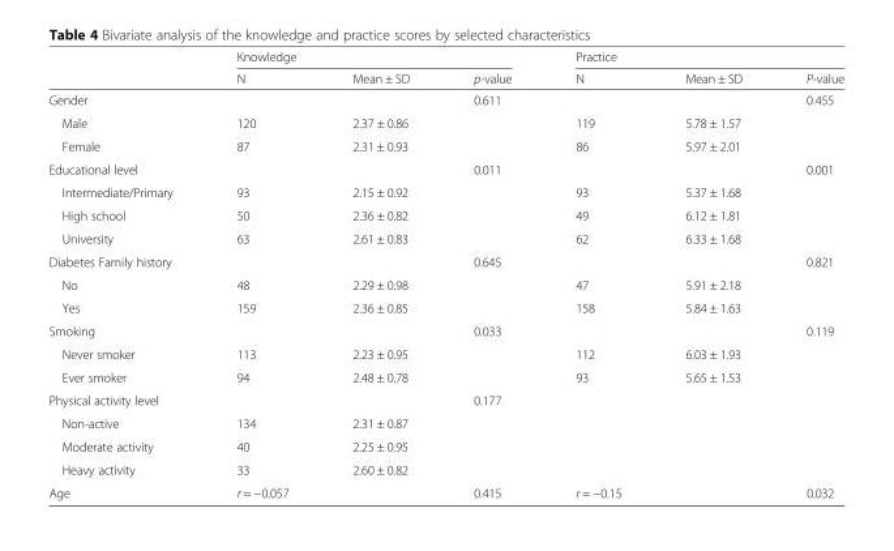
<table><thead><tr><td rowspan="2"></td><td colspan="3">Knowledge</td><td colspan="3">Practice</td></tr><tr><td>N</td><td>Mean ± SD</td><td>p-value</td><td>N</td><td>Mean ± SD</td><td>P-value</td></tr></thead><tbody><tr><td>Gender</td><td></td><td></td><td>0.611</td><td></td><td></td><td>0.455</td></tr><tr><td>Male</td><td>120</td><td>2.37 ± 0.86</td><td></td><td>119</td><td>5.78 ± 1.57</td><td></td></tr><tr><td>Female</td><td>87</td><td>2.31 ± 0.93</td><td></td><td>86</td><td>5.97 ± 2.01</td><td></td></tr><tr><td colspan="3">Educational level</td><td>0.011</td><td></td><td></td><td>0.001</td></tr><tr><td>Intermediate/Primary</td><td>93</td><td>2.15 ± 0.92</td><td></td><td>93</td><td>5.37 ± 1.68</td><td></td></tr><tr><td>High school</td><td>50</td><td>2.36 ± 0.82</td><td></td><td>49</td><td>6.12 ± 1.81</td><td></td></tr><tr><td>University</td><td>63</td><td>2.61 ± 0.83</td><td></td><td>62</td><td>6.33 ± 1.68</td><td></td></tr><tr><td colspan="3">Diabetes Family history</td><td>0.645</td><td></td><td></td><td>0.821</td></tr><tr><td>No</td><td>48</td><td>2.29 ± 0.98</td><td></td><td>47</td><td>5.91 ± 2.18</td><td></td></tr><tr><td>Yes</td><td>159</td><td>2.36 ± 0.85</td><td></td><td>158</td><td>5.84 ± 1.63</td><td></td></tr><tr><td colspan="2">Smoking</td><td></td><td>0.033</td><td></td><td></td><td>0.119</td></tr><tr><td>Never smoker</td><td>113</td><td>2.23 ± 0.95</td><td></td><td>112</td><td>6.03 ± 1.93</td><td></td></tr><tr><td>Ever smoker</td><td>94</td><td>2.48 ± 0.78</td><td></td><td>93</td><td>5.65 ± 1.53</td><td></td></tr><tr><td colspan="2">Physical activity level</td><td></td><td>0.177</td><td></td><td></td><td></td></tr><tr><td>Non-active</td><td>134</td><td>2.31 ± 0.87</td><td></td><td></td><td></td><td></td></tr><tr><td>Moderate activity</td><td>40</td><td>2.25 ± 0.95</td><td></td><td></td><td></td><td></td></tr><tr><td>Heavy activity</td><td>33</td><td>2.60 ± 0.82</td><td></td><td></td><td></td><td></td></tr><tr><td>Age</td><td>r = −0.057</td><td></td><td>0.415</td><td>r = −0.15</td><td></td><td>0.032</td></tr></tbody></table>